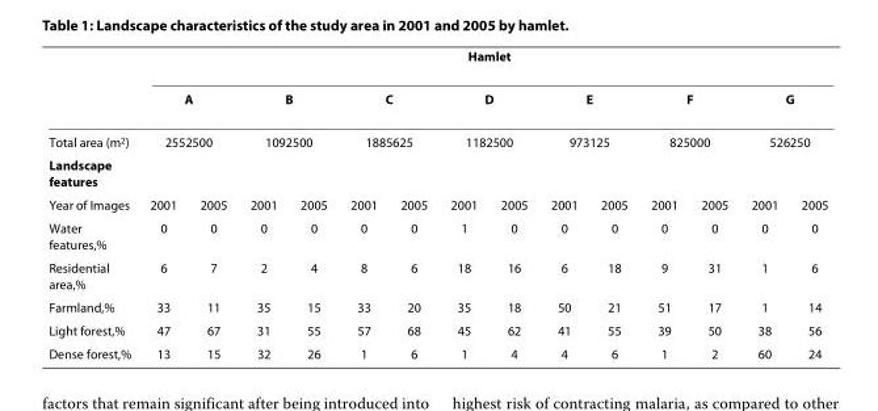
<table><thead><tr><td rowspan="4">Total area (m<sup>2</sup>) Landscape features</td><td colspan="14">Hamlet</td></tr><tr><td rowspan="2" colspan="2">A 2552500</td><td rowspan="2" colspan="2">B 1092500</td><td rowspan="2" colspan="2">C 1885625</td><td rowspan="2" colspan="2">D 1182500</td><td rowspan="2" colspan="2">E 973125</td><td rowspan="2" colspan="2">F 825000</td><td rowspan="2" colspan="2">G 526250</td></tr><tr></tr><tr><td></td><td></td><td></td><td></td><td></td><td></td><td></td><td></td><td></td><td></td><td></td><td></td><td></td><td></td></tr></thead><tbody><tr><td>Year of Images</td><td>2001</td><td>2005</td><td>2001</td><td>2005</td><td>2001</td><td>2005</td><td>2001</td><td>2005</td><td>2001</td><td>2005</td><td>2001</td><td>2005</td><td>2001</td><td>2005</td></tr><tr><td>Water features,%</td><td>0</td><td>0</td><td>0</td><td>0</td><td>0</td><td>0</td><td>1</td><td>0</td><td>0</td><td>0</td><td>0</td><td>0</td><td>0</td><td>0</td></tr><tr><td>Residential area,%</td><td>6</td><td>7</td><td>2</td><td>4</td><td>8</td><td>6</td><td>18</td><td>16</td><td>6</td><td>18</td><td>9</td><td>31</td><td>1</td><td>6</td></tr><tr><td>Farmland,%</td><td>33</td><td>11</td><td>35</td><td>15</td><td>33</td><td>20</td><td>35</td><td>18</td><td>50</td><td>21</td><td>51</td><td>17</td><td>1</td><td>14</td></tr><tr><td>Light forest,%</td><td>47</td><td>67</td><td>31</td><td>55</td><td>57</td><td>68</td><td>45</td><td>62</td><td>41</td><td>55</td><td>39</td><td>50</td><td>38</td><td>56</td></tr><tr><td>Dense forest,%</td><td>13</td><td>15</td><td>32</td><td>26</td><td>1</td><td>6</td><td>1</td><td>4</td><td>4</td><td>6</td><td>1</td><td>2</td><td>60</td><td>24</td></tr></tbody></table>